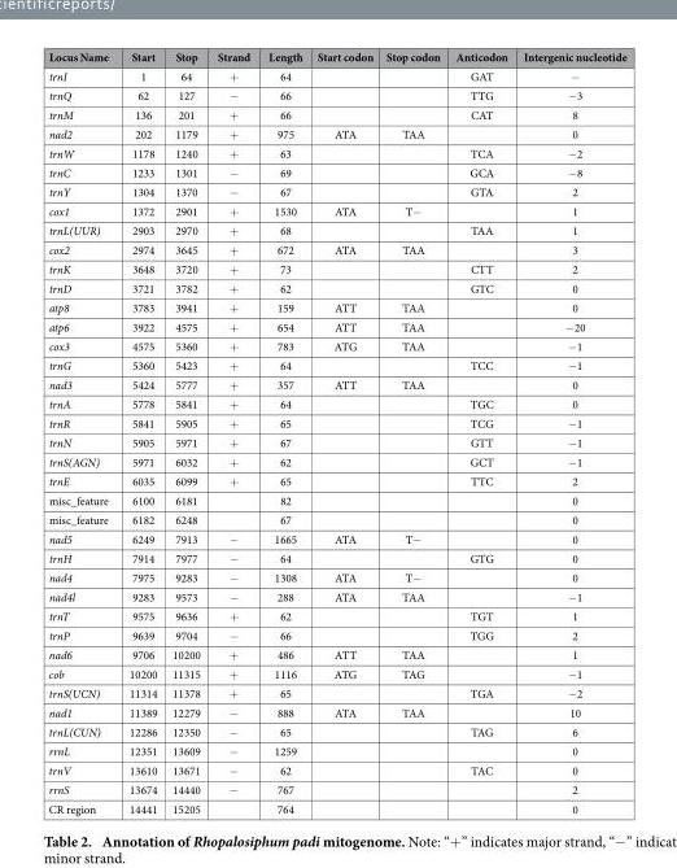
<table><thead><tr><td>Locus Name</td><td>Start</td><td>Stop</td><td>Strand</td><td>Length</td><td>Start codon</td><td>Stop codon</td><td>Anticodon</td><td>Intergenic nucleotide</td></tr></thead><tbody><tr><td>trnI</td><td>1</td><td>64</td><td>+</td><td>64</td><td></td><td></td><td>GAT</td><td>−</td></tr><tr><td>trnQ</td><td>62</td><td>127</td><td>−</td><td>66</td><td></td><td></td><td>TTG</td><td>− 3</td></tr><tr><td>trnM</td><td>136</td><td>201</td><td>+</td><td>66</td><td></td><td></td><td>CAT</td><td>8</td></tr><tr><td>nad2</td><td>202</td><td>1179</td><td>+</td><td>975</td><td>ATA</td><td>TAA</td><td></td><td>0</td></tr><tr><td>trnW</td><td>1178</td><td>1240</td><td>+</td><td>63</td><td></td><td></td><td>TCA</td><td>− 2</td></tr><tr><td>trnC</td><td>1233</td><td>1301</td><td>−</td><td>69</td><td></td><td></td><td>GCA</td><td>− 8</td></tr><tr><td>trnY</td><td>1304</td><td>1370</td><td>−</td><td>67</td><td></td><td></td><td>GTA</td><td>2</td></tr><tr><td>cox1</td><td>1372</td><td>2901</td><td>+</td><td>1530</td><td>ATA</td><td>T−</td><td></td><td>1</td></tr><tr><td>trnL(UUR)</td><td>2903</td><td>2970</td><td>+</td><td>68</td><td></td><td></td><td>TAA</td><td>1</td></tr><tr><td>cox2</td><td>2974</td><td>3645</td><td>+</td><td>672</td><td>ATA</td><td>TAA</td><td></td><td>3</td></tr><tr><td>trnK</td><td>3648</td><td>3720</td><td>+</td><td>73</td><td></td><td></td><td>CTT</td><td>2</td></tr><tr><td>trnD</td><td>3721</td><td>3782</td><td>+</td><td>62</td><td></td><td></td><td>GTC</td><td>0</td></tr><tr><td>atp8</td><td>3783</td><td>3941</td><td>+</td><td>159</td><td>ATT</td><td>TAA</td><td></td><td>0</td></tr><tr><td>atp6</td><td>3922</td><td>4575</td><td>+</td><td>654</td><td>ATT</td><td>TAA</td><td></td><td>− 20</td></tr><tr><td>cox3</td><td>4575</td><td>5360</td><td>+</td><td>783</td><td>ATG</td><td>TAA</td><td></td><td>− 1</td></tr><tr><td>trnG</td><td>5360</td><td>5423</td><td>+</td><td>64</td><td></td><td></td><td>TCC</td><td>− 1</td></tr><tr><td>nad3</td><td>5424</td><td>5777</td><td>+</td><td>357</td><td>ATT</td><td>TAA</td><td></td><td>0</td></tr><tr><td>trnA</td><td>5778</td><td>5841</td><td>+</td><td>64</td><td></td><td></td><td>TGC</td><td>0</td></tr><tr><td>trnR</td><td>5841</td><td>5905</td><td>+</td><td>65</td><td></td><td></td><td>TCG</td><td>− 1</td></tr><tr><td>trnN</td><td>5905</td><td>5971</td><td>+</td><td>67</td><td></td><td></td><td>GTT</td><td>− 1</td></tr><tr><td>trnS(AGN)</td><td>5971</td><td>6032</td><td>+</td><td>62</td><td></td><td></td><td>GCT</td><td>− 1</td></tr><tr><td>trnE</td><td>6035</td><td>6099</td><td>+</td><td>65</td><td></td><td></td><td>TTC</td><td>2</td></tr><tr><td>misc_feature</td><td>6100</td><td>6181</td><td></td><td>82</td><td></td><td></td><td></td><td>0</td></tr><tr><td>misc_feature</td><td>6182</td><td>6248</td><td></td><td>67</td><td></td><td></td><td></td><td>0</td></tr><tr><td>nad5</td><td>6249</td><td>7913</td><td>−</td><td>1665</td><td>ATA</td><td>T−</td><td></td><td>0</td></tr><tr><td>trnH</td><td>7914</td><td>7977</td><td>−</td><td>64</td><td></td><td></td><td>GTG</td><td>0</td></tr><tr><td>nad4</td><td>7975</td><td>9283</td><td>−</td><td>1308</td><td>ATA</td><td>T−</td><td></td><td>0</td></tr><tr><td>nad4l</td><td>9283</td><td>9573</td><td>−</td><td>288</td><td>ATA</td><td>TAA</td><td></td><td>− 1</td></tr><tr><td>trnT</td><td>9575</td><td>9636</td><td>+</td><td>62</td><td></td><td></td><td>TGT</td><td>1</td></tr><tr><td>trnP</td><td>9639</td><td>9704</td><td>−</td><td>66</td><td></td><td></td><td>TGG</td><td>2</td></tr><tr><td>nad6</td><td>9706</td><td>10200</td><td>+</td><td>486</td><td>ATT</td><td>TAA</td><td></td><td>1</td></tr><tr><td>cob</td><td>10200</td><td>11315</td><td>+</td><td>1116</td><td>ATG</td><td>TAG</td><td></td><td>− 1</td></tr><tr><td>trnS(UCN)</td><td>11314</td><td>11378</td><td>+</td><td>65</td><td></td><td></td><td>TGA</td><td>− 2</td></tr><tr><td>nad1</td><td>11389</td><td>12279</td><td>−</td><td>888</td><td>ATA</td><td>TAA</td><td></td><td>10</td></tr><tr><td>trnL(CUN)</td><td>12286</td><td>12350</td><td>−</td><td>65</td><td></td><td></td><td>TAG</td><td>6</td></tr><tr><td>rrnL</td><td>12351</td><td>13609</td><td>−</td><td>1259</td><td></td><td></td><td></td><td>0</td></tr><tr><td>trnV</td><td>13610</td><td>13671</td><td>−</td><td>62</td><td></td><td></td><td>TAC</td><td>0</td></tr><tr><td>rrnS</td><td>13674</td><td>14440</td><td>−</td><td>767</td><td></td><td></td><td></td><td>2</td></tr><tr><td>CR region</td><td>14441</td><td>15205</td><td></td><td>764</td><td></td><td></td><td></td><td>0</td></tr></tbody></table>